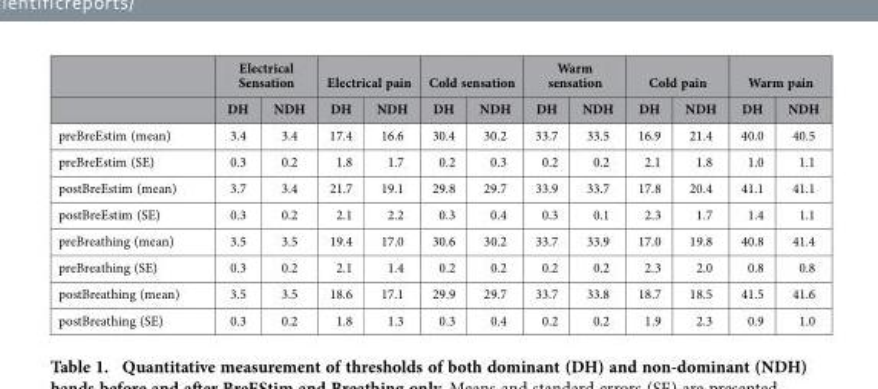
<table><thead><tr><td rowspan="2"></td><td colspan="2">Electrical Sensation</td><td colspan="2">Electrical pain</td><td colspan="2">Cold sensation</td><td colspan="2">Warm sensation</td><td colspan="2">Cold pain</td><td colspan="2">Warm pain</td></tr><tr><td>DH</td><td>NDH</td><td>DH</td><td>NDH</td><td>DH</td><td>NDH</td><td>DH</td><td>NDH</td><td>DH</td><td>NDH</td><td>DH</td><td>NDH</td></tr></thead><tbody><tr><td>preBreEstim (mean)</td><td>3.4</td><td>3.4</td><td>17.4</td><td>16.6</td><td>30.4</td><td>30.2</td><td>33.7</td><td>33.5</td><td>16.9</td><td>21.4</td><td>40.0</td><td>40.5</td></tr><tr><td>preBreEstim (SE)</td><td>0.3</td><td>0.2</td><td>1.8</td><td>1.7</td><td>0.2</td><td>0.3</td><td>0.2</td><td>0.2</td><td>2.1</td><td>1.8</td><td>1.0</td><td>1.1</td></tr><tr><td>postBreEstim (mean)</td><td>3.7</td><td>3.4</td><td>21.7</td><td>19.1</td><td>29.8</td><td>29.7</td><td>33.9</td><td>33.7</td><td>17.8</td><td>20.4</td><td>41.1</td><td>41.1</td></tr><tr><td>postBreEstim (SE)</td><td>0.3</td><td>0.2</td><td>2.1</td><td>2.2</td><td>0.3</td><td>0.4</td><td>0.3</td><td>0.1</td><td>2.3</td><td>1.7</td><td>1.4</td><td>1.1</td></tr><tr><td>preBreathing (mean)</td><td>3.5</td><td>3.5</td><td>19.4</td><td>17.0</td><td>30.6</td><td>30.2</td><td>33.7</td><td>33.9</td><td>17.0</td><td>19.8</td><td>40.8</td><td>41.4</td></tr><tr><td>preBreathing (SE)</td><td>0.3</td><td>0.2</td><td>2.1</td><td>1.4</td><td>0.2</td><td>0.2</td><td>0.2</td><td>0.2</td><td>2.3</td><td>2.0</td><td>0.8</td><td>0.8</td></tr><tr><td>postBreathing (mean)</td><td>3.5</td><td>3.5</td><td>18.6</td><td>17.1</td><td>29.9</td><td>29.7</td><td>33.7</td><td>33.8</td><td>18.7</td><td>18.5</td><td>41.5</td><td>41.6</td></tr><tr><td>postBreathing (SE)</td><td>0.3</td><td>0.2</td><td>1.8</td><td>1.3</td><td>0.3</td><td>0.4</td><td>0.2</td><td>0.2</td><td>1.9</td><td>2.3</td><td>0.9</td><td>1.0</td></tr></tbody></table>